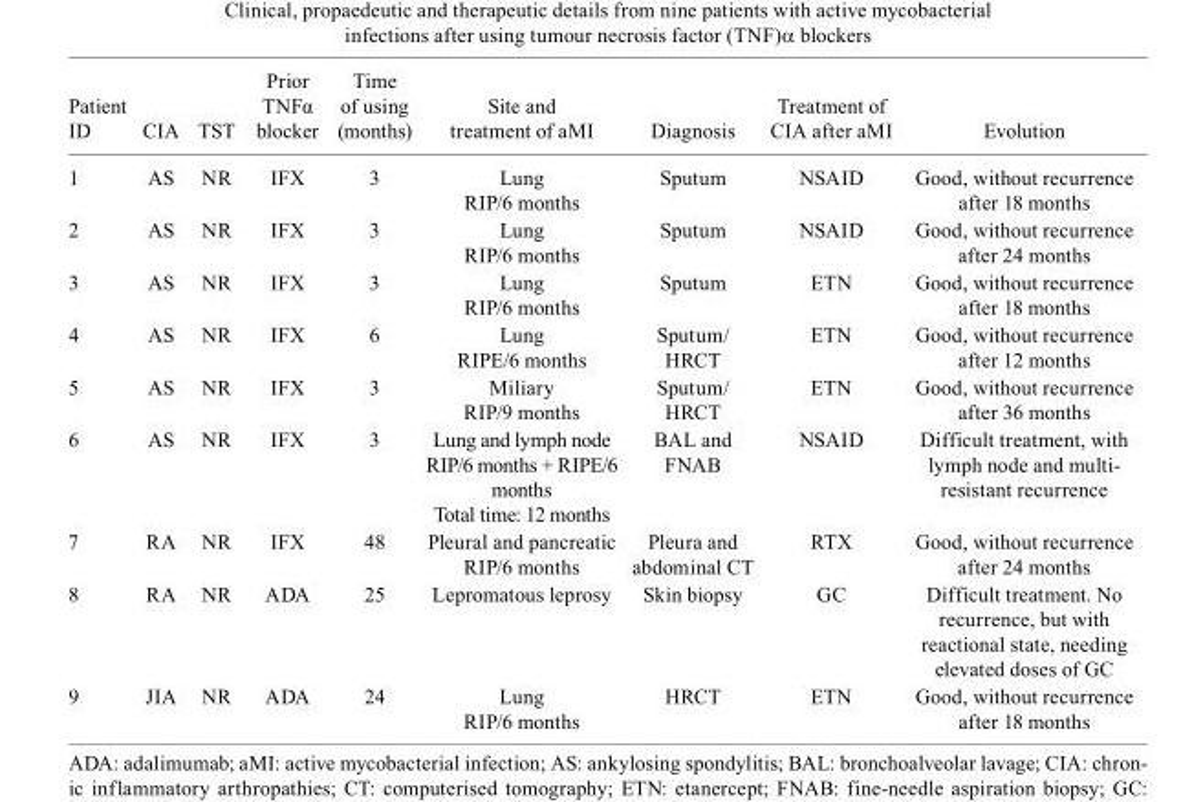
<table><thead><tr><td>Patient ID</td><td>CIA</td><td>TST</td><td>Prior TNFα blocker</td><td>Time of using (months)</td><td>Site and treatment of aMI</td><td>Diagnosis</td><td>Treatment of CIA after aMI</td><td>Evolution</td></tr></thead><tbody><tr><td>1</td><td>AS</td><td>NR</td><td>IFX</td><td>3</td><td>Lung RIP/6 months</td><td>Sputum</td><td>NSAID</td><td>Good, without recurrence after 18 months</td></tr><tr><td>2</td><td>AS</td><td>NR</td><td>IFX</td><td>3</td><td>Lung RIP/6 months</td><td>Sputum</td><td>NSAID</td><td>Good, without recurrence after 24 months</td></tr><tr><td>3</td><td>AS</td><td>NR</td><td>IFX</td><td>3</td><td>Lung RIP/6 months</td><td>Sputum</td><td>ETN</td><td>Good, without recurrence after 18 months</td></tr><tr><td>4</td><td>AS</td><td>NR</td><td>IFX</td><td>6</td><td>Lung RIPE/6 months</td><td>Sputum/ HRCT</td><td>ETN</td><td>Good, without recurrence after 12 months</td></tr><tr><td>5</td><td>AS</td><td>NR</td><td>IFX</td><td>3</td><td>Miliary RIP/9 months</td><td>Sputum/ HRCT</td><td>ETN</td><td>Good, without recurrence after 36 months</td></tr><tr><td>6</td><td>AS</td><td>NR</td><td>IFX</td><td>3</td><td>Lung and lymph node RIP/6 months + RIPE/6 months Total time: 12 months</td><td>BAL and FNAB</td><td>NSAID</td><td>Difficult treatment, with lymph node and multi- resistant recurrence</td></tr><tr><td>7</td><td>RA</td><td>NR</td><td>IFX</td><td>48</td><td>Pleural and pancreatic RIP/6 months</td><td>Pleura and abdominal CT</td><td>RTX</td><td>Good, without recurrence after 24 months</td></tr><tr><td>8</td><td>RA</td><td>NR</td><td>ADA</td><td>25</td><td>Lepromatous leprosy</td><td>Skin biopsy</td><td>GC</td><td>Difficult treatment. No recurrence, but with reactional state, needing elevated doses of GC</td></tr><tr><td>9</td><td>JIA</td><td>NR</td><td>ADA</td><td>24</td><td>Lung RIP/6 months</td><td>HRCT</td><td>ETN</td><td>Good, without recurrence after 18 months</td></tr></tbody></table>